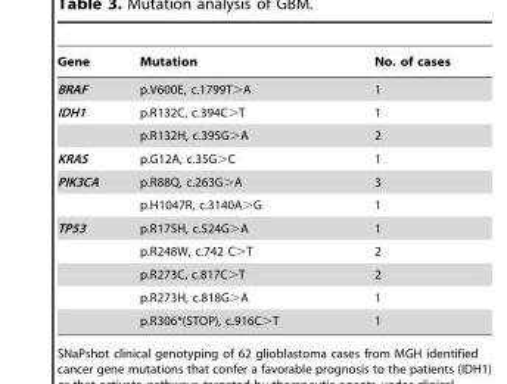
<table><thead><tr><td>Gene</td><td>Mutation</td><td>No. of cases</td></tr></thead><tbody><tr><td>BRAF</td><td>p.V600E, c.1799T&gt;A</td><td>1</td></tr><tr><td rowspan="2">IDH1</td><td>p.R132C, c.394C&gt;T</td><td>1</td></tr><tr><td>p.R132H, c.395G&gt;A</td><td>2</td></tr><tr><td>KRAS</td><td>p.G12A, c.35G&gt;C</td><td>1</td></tr><tr><td rowspan="2">PIK3CA</td><td>p.R88Q, c.263G&gt;A</td><td>3</td></tr><tr><td>p.H1047R, c.3140A&gt;G</td><td>1</td></tr><tr><td rowspan="5">TP53</td><td>p.R175H, c.524G&gt;A</td><td>1</td></tr><tr><td>p.R248W, c.742 C&gt;T</td><td>2</td></tr><tr><td>p.R273C, c.817C&gt;T</td><td>2</td></tr><tr><td>p.R273H, c.818G&gt;A</td><td>1</td></tr><tr><td>p.R306*(STOP), c.916C&gt;T</td><td>1</td></tr></tbody></table>